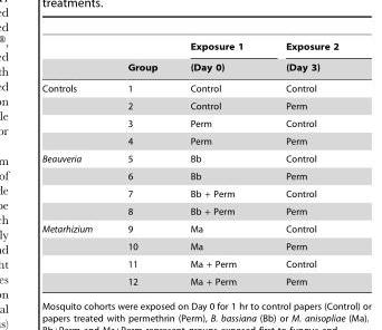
<table><thead><tr><td rowspan="2"></td><td rowspan="2">Group</td><td rowspan="2">Exposure 1 (Day 0)</td><td rowspan="2">Exposure 2 (Day 3)</td></tr><tr></tr></thead><tbody><tr><td rowspan="4">Controls</td><td>1</td><td>Control</td><td>Control</td></tr><tr><td>2</td><td>Control</td><td>Perm</td></tr><tr><td>3</td><td>Perm</td><td>Control</td></tr><tr><td>4</td><td>Perm</td><td>Perm</td></tr><tr><td rowspan="4">Beauveria</td><td>5</td><td>Bb</td><td>Control</td></tr><tr><td>6</td><td>Bb</td><td>Perm</td></tr><tr><td>7</td><td>Bb + Perm</td><td>Control</td></tr><tr><td>8</td><td>Bb + Perm</td><td>Perm</td></tr><tr><td rowspan="4">Metarhizium</td><td>9</td><td>Ma</td><td>Control</td></tr><tr><td>10</td><td>Ma</td><td>Perm</td></tr><tr><td>11</td><td>Ma + Perm</td><td>Control</td></tr><tr><td>12</td><td>Ma + Perm</td><td>Perm</td></tr></tbody></table>